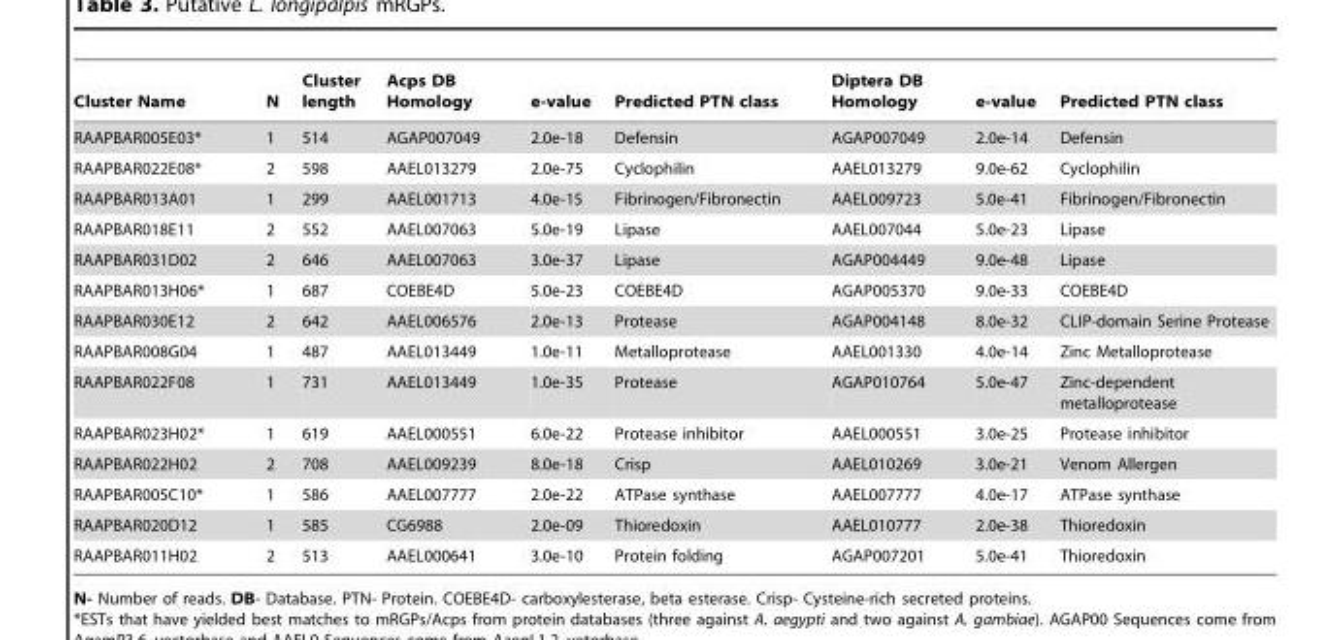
<table><thead><tr><td>Cluster Name</td><td>N</td><td>Cluster length</td><td>Acps DB Homology</td><td>e-value</td><td>Predicted PTN class</td><td>Diptera DB Homology</td><td>e-value</td><td>Predicted PTN class</td></tr></thead><tbody><tr><td>RAAPBAR005E03*</td><td>1</td><td>514</td><td>AGAP007049</td><td>2.0e-18</td><td>Defensin</td><td>AGAP007049</td><td>2.0e-14</td><td>Defensin</td></tr><tr><td>RAAPBAR022E08*</td><td>2</td><td>598</td><td>AAEL013279</td><td>2.0e-75</td><td>Cyclophilin</td><td>AAEL013279</td><td>9.0e-62</td><td>Cyclophilin</td></tr><tr><td>RAAPBAR013A01</td><td>1</td><td>299</td><td>AAEL001713</td><td>4.0e-15</td><td>Fibrinogen/Fibronectin</td><td>AAEL009723</td><td>5.0e-41</td><td>Fibrinogen/Fibronectin</td></tr><tr><td>RAAPBAR018E11</td><td>2</td><td>552</td><td>AAEL007063</td><td>5.0e-19</td><td>Lipase</td><td>AAEL007044</td><td>5.0e-23</td><td>Lipase</td></tr><tr><td>RAAPBAR031D02</td><td>2</td><td>646</td><td>AAEL007063</td><td>3.0e-37</td><td>Lipase</td><td>AGAP004449</td><td>9.0e-48</td><td>Lipase</td></tr><tr><td>RAAPBAR013H06*</td><td>1</td><td>687</td><td>COEBE4D</td><td>5.0e-23</td><td>COEBE4D</td><td>AGAP005370</td><td>9.0e-33</td><td>COEBE4D</td></tr><tr><td>RAAPBAR030E12</td><td>2</td><td>642</td><td>AAEL006576</td><td>2.0e-13</td><td>Protease</td><td>AGAP004148</td><td>8.0e-32</td><td>CLIP-domain Serine Protease</td></tr><tr><td>RAAPBAR008G04</td><td>1</td><td>487</td><td>AAEL013449</td><td>1.0e-11</td><td>Metalloprotease</td><td>AAEL001330</td><td>4.0e-14</td><td>Zinc Metalloprotease</td></tr><tr><td>RAAPBAR022F08</td><td>1</td><td>731</td><td>AAEL013449</td><td>1.0e-35</td><td>Protease</td><td>AGAP010764</td><td>5.0e-47</td><td>Zinc-dependent metalloprotease</td></tr><tr><td>RAAPBAR023H02*</td><td>1</td><td>619</td><td>AAEL000551</td><td>6.0e-22</td><td>Protease inhibitor</td><td>AAEL000551</td><td>3.0e-25</td><td>Protease inhibitor</td></tr><tr><td>RAAPBAR022H02</td><td>2</td><td>708</td><td>AAEL009239</td><td>8.0e-18</td><td>Crisp</td><td>AAEL010269</td><td>3.0e-21</td><td>Venom Allergen</td></tr><tr><td>RAAPBAR005C10*</td><td>1</td><td>586</td><td>AAEL007777</td><td>2.0e-22</td><td>ATPase synthase</td><td>AAEL007777</td><td>4.0e-17</td><td>ATPase synthase</td></tr><tr><td>RAAPBAR020D12</td><td>1</td><td>585</td><td>CG6988</td><td>2.0e-09</td><td>Thioredoxin</td><td>AAEL010777</td><td>2.0e-38</td><td>Thioredoxin</td></tr><tr><td>RAAPBAR011H02</td><td>2</td><td>513</td><td>AAEL000641</td><td>3.0e-10</td><td>Protein folding</td><td>AGAP007201</td><td>5.0e-41</td><td>Thioredoxin</td></tr></tbody></table>